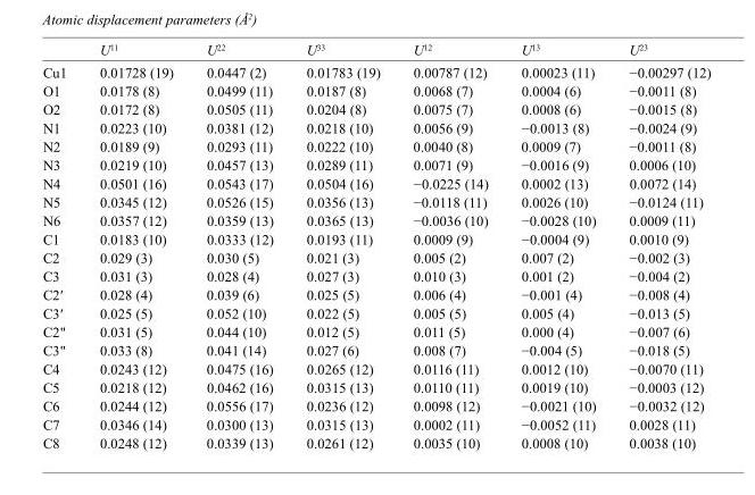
<table><thead><tr><td></td><td>U<sup>11</sup></td><td>U<sup>22</sup></td><td>U<sup>33</sup></td><td>U<sup>12</sup></td><td>U<sup>13</sup></td><td>U<sup>23</sup></td></tr></thead><tbody><tr><td>Cu1</td><td>0.01728 (19)</td><td>0.0447 (2)</td><td>0.01783 (19)</td><td>0.00787 (12)</td><td>0.00023 (11)</td><td>−0.00297 (12)</td></tr><tr><td>O1</td><td>0.0178 (8)</td><td>0.0499 (11)</td><td>0.0187 (8)</td><td>0.0068 (7)</td><td>0.0004 (6)</td><td>−0.0011 (8)</td></tr><tr><td>O2</td><td>0.0172 (8)</td><td>0.0505 (11)</td><td>0.0204 (8)</td><td>0.0075 (7)</td><td>0.0008 (6)</td><td>−0.0015 (8)</td></tr><tr><td>N1</td><td>0.0223 (10)</td><td>0.0381 (12)</td><td>0.0218 (10)</td><td>0.0056 (9)</td><td>−0.0013 (8)</td><td>−0.0024 (9)</td></tr><tr><td>N2</td><td>0.0189 (9)</td><td>0.0293 (11)</td><td>0.0222 (10)</td><td>0.0040 (8)</td><td>0.0009 (7)</td><td>−0.0011 (8)</td></tr><tr><td>N3</td><td>0.0219 (10)</td><td>0.0457 (13)</td><td>0.0289 (11)</td><td>0.0071 (9)</td><td>−0.0016 (9)</td><td>0.0006 (10)</td></tr><tr><td>N4</td><td>0.0501 (16)</td><td>0.0543 (17)</td><td>0.0504 (16)</td><td>−0.0225 (14)</td><td>0.0002 (13)</td><td>0.0072 (14)</td></tr><tr><td>N5</td><td>0.0345 (12)</td><td>0.0526 (15)</td><td>0.0356 (13)</td><td>−0.0118 (11)</td><td>0.0026 (10)</td><td>−0.0124 (11)</td></tr><tr><td>N6</td><td>0.0357 (12)</td><td>0.0359 (13)</td><td>0.0365 (13)</td><td>−0.0036 (10)</td><td>−0.0028 (10)</td><td>0.0009 (11)</td></tr><tr><td>C1</td><td>0.0183 (10)</td><td>0.0333 (12)</td><td>0.0193 (11)</td><td>0.0009 (9)</td><td>−0.0004 (9)</td><td>0.0010 (9)</td></tr><tr><td>C2</td><td>0.029 (3)</td><td>0.030 (5)</td><td>0.021 (3)</td><td>0.005 (2)</td><td>0.007 (2)</td><td>−0.002 (3)</td></tr><tr><td>C3</td><td>0.031 (3)</td><td>0.028 (4)</td><td>0.027 (3)</td><td>0.010 (3)</td><td>0.001 (2)</td><td>−0.004 (2)</td></tr><tr><td>C2′</td><td>0.028 (4)</td><td>0.039 (6)</td><td>0.025 (5)</td><td>0.006 (4)</td><td>−0.001 (4)</td><td>−0.008 (4)</td></tr><tr><td>C3′</td><td>0.025 (5)</td><td>0.052 (10)</td><td>0.022 (5)</td><td>0.005 (5)</td><td>0.005 (4)</td><td>−0.013 (5)</td></tr><tr><td>C2&quot;</td><td>0.031 (5)</td><td>0.044 (10)</td><td>0.012 (5)</td><td>0.011 (5)</td><td>0.000 (4)</td><td>−0.007 (6)</td></tr><tr><td>C3&quot;</td><td>0.033 (8)</td><td>0.041 (14)</td><td>0.027 (6)</td><td>0.008 (7)</td><td>−0.004 (5)</td><td>−0.018 (5)</td></tr><tr><td>C4</td><td>0.0243 (12)</td><td>0.0475 (16)</td><td>0.0265 (12)</td><td>0.0116 (11)</td><td>0.0012 (10)</td><td>−0.0070 (11)</td></tr><tr><td>C5</td><td>0.0218 (12)</td><td>0.0462 (16)</td><td>0.0315 (13)</td><td>0.0110 (11)</td><td>0.0019 (10)</td><td>−0.0003 (12)</td></tr><tr><td>C6</td><td>0.0244 (12)</td><td>0.0556 (17)</td><td>0.0236 (12)</td><td>0.0098 (12)</td><td>−0.0021 (10)</td><td>−0.0032 (12)</td></tr><tr><td>C7</td><td>0.0346 (14)</td><td>0.0300 (13)</td><td>0.0315 (13)</td><td>0.0002 (11)</td><td>−0.0052 (11)</td><td>0.0028 (11)</td></tr><tr><td>C8</td><td>0.0248 (12)</td><td>0.0339 (13)</td><td>0.0261 (12)</td><td>0.0035 (10)</td><td>0.0008 (10)</td><td>0.0038 (10)</td></tr></tbody></table>